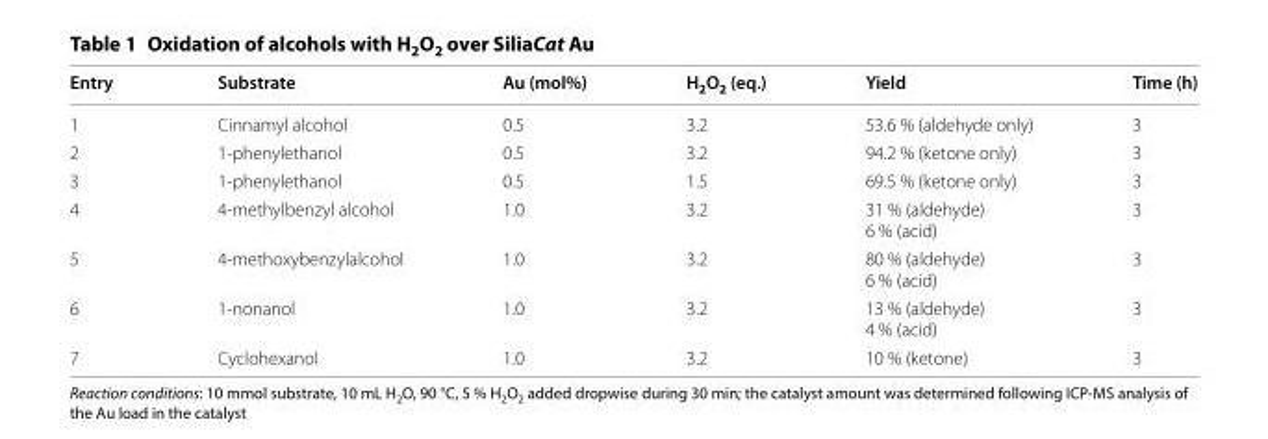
<table><thead><tr><td>Entry</td><td>Substrate</td><td>Au (mol%)</td><td>H<sub>2</sub>O<sub>2</sub> (eq.)</td><td>Yield</td><td>Time (h)</td></tr></thead><tbody><tr><td>1</td><td>Cinnamyl alcohol</td><td>0.5</td><td>3.2</td><td>53.6 % (aldehyde only)</td><td>3</td></tr><tr><td>2</td><td>1-phenylethanol</td><td>0.5</td><td>3.2</td><td>94.2 % (ketone only)</td><td>3</td></tr><tr><td>3</td><td>1-phenylethanol</td><td>0.5</td><td>1.5</td><td>69.5 % (ketone only)</td><td>3</td></tr><tr><td>4</td><td>4-methylbenzyl alcohol</td><td>1.0</td><td>3.2</td><td>31 % (aldehyde) 6 % (acid)</td><td>3</td></tr><tr><td>5</td><td>4-methoxybenzylalcohol</td><td>1.0</td><td>3.2</td><td>80 % (aldehyde) 6 % (acid)</td><td>3</td></tr><tr><td>6</td><td>1-nonanol</td><td>1.0</td><td>3.2</td><td>13 % (aldehyde) 4 % (acid)</td><td>3</td></tr><tr><td>7</td><td>Cyclohexanol</td><td>1.0</td><td>3.2</td><td>10 % (ketone)</td><td>3</td></tr></tbody></table>